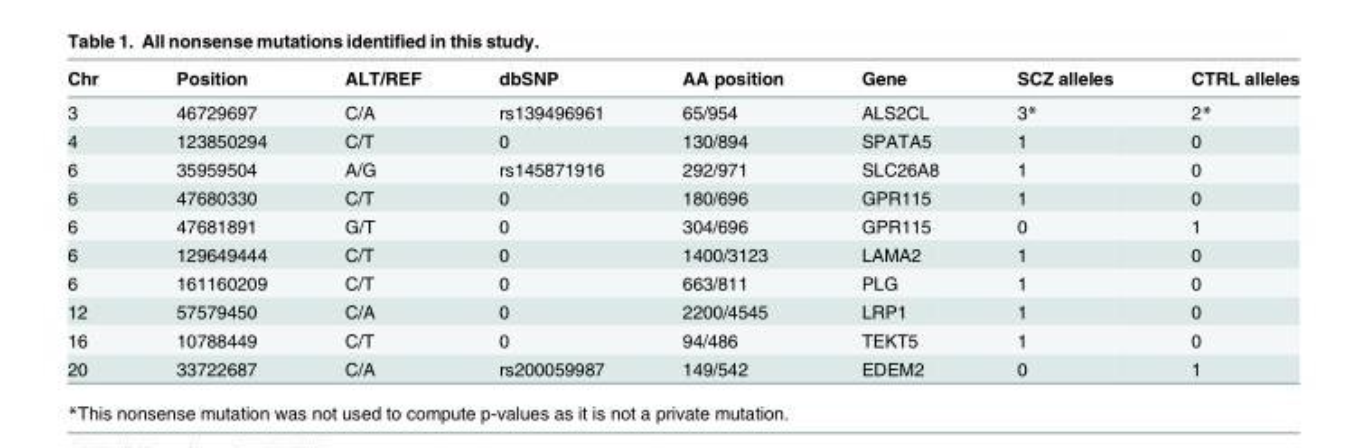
<table><thead><tr><td>Chr</td><td>Position</td><td>ALT/REF</td><td>dbSNP</td><td>AA position</td><td>Gene</td><td>SCZ alleles</td><td>CTRL alleles</td></tr></thead><tbody><tr><td>3</td><td>46729697</td><td>C/A</td><td>rs139496961</td><td>65/954</td><td>ALS2CL</td><td>3*</td><td>2*</td></tr><tr><td>4</td><td>123850294</td><td>C/T</td><td>0</td><td>130/894</td><td>SPATA5</td><td>1</td><td>0</td></tr><tr><td>6</td><td>35959504</td><td>A/G</td><td>rs145871916</td><td>292/971</td><td>SLC26A8</td><td>1</td><td>0</td></tr><tr><td>6</td><td>47680330</td><td>C/T</td><td>0</td><td>180/696</td><td>GPR115</td><td>1</td><td>0</td></tr><tr><td>6</td><td>47681891</td><td>G/T</td><td>0</td><td>304/696</td><td>GPR115</td><td>0</td><td>1</td></tr><tr><td>6</td><td>129649444</td><td>C/T</td><td>0</td><td>1400/3123</td><td>LAMA2</td><td>1</td><td>0</td></tr><tr><td>6</td><td>161160209</td><td>C/T</td><td>0</td><td>663/811</td><td>PLG</td><td>1</td><td>0</td></tr><tr><td>12</td><td>57579450</td><td>C/A</td><td>0</td><td>2200/4545</td><td>LRP1</td><td>1</td><td>0</td></tr><tr><td>16</td><td>10788449</td><td>C/T</td><td>0</td><td>94/486</td><td>TEKT5</td><td>1</td><td>0</td></tr><tr><td>20</td><td>33722687</td><td>C/A</td><td>rs200059987</td><td>149/542</td><td>EDEM2</td><td>0</td><td>1</td></tr></tbody></table>